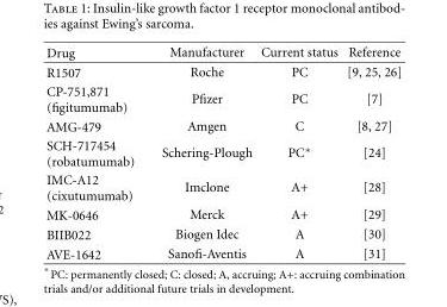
<table><thead><tr><td>Drug</td><td>Manufacturer</td><td>Current status</td><td>Reference</td></tr></thead><tbody><tr><td>R1507</td><td>Roche</td><td>PC</td><td>[9, 25, 26]</td></tr><tr><td>CP-751,871 (figitumumab)</td><td>Pfizer</td><td>PC</td><td>[7]</td></tr><tr><td>AMG-479</td><td>Amgen</td><td>C</td><td>[8, 27]</td></tr><tr><td>SCH-717454 (robatumumab)</td><td>Schering-Plough</td><td>PC∗</td><td>[24]</td></tr><tr><td>IMC-A12 (cixutumumab)</td><td>Imclone</td><td>A+</td><td>[28]</td></tr><tr><td>MK-0646</td><td>Merck</td><td>A+</td><td>[29]</td></tr><tr><td>BIIB022</td><td>Biogen Idec</td><td>A</td><td>[30]</td></tr><tr><td>AVE-1642</td><td>Sanofi-Aventis</td><td>A</td><td>[31]</td></tr></tbody></table>